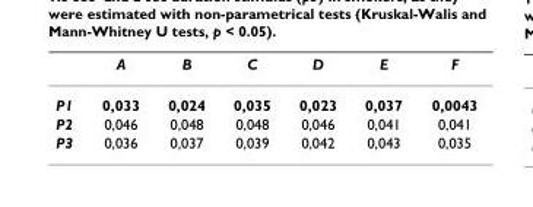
<table><thead><tr><td></td><td>A</td><td>B</td><td>C</td><td>D</td><td>E</td><td>F</td></tr></thead><tbody><tr><td>P1</td><td>0,033</td><td>0,024</td><td>0,035</td><td>0,023</td><td>0,037</td><td>0,0043</td></tr><tr><td>P2</td><td>0,046</td><td>0,048</td><td>0,048</td><td>0,046</td><td>0,041</td><td>0,041</td></tr><tr><td>P3</td><td>0,036</td><td>0,037</td><td>0,039</td><td>0,042</td><td>0,043</td><td>0,035</td></tr></tbody></table>